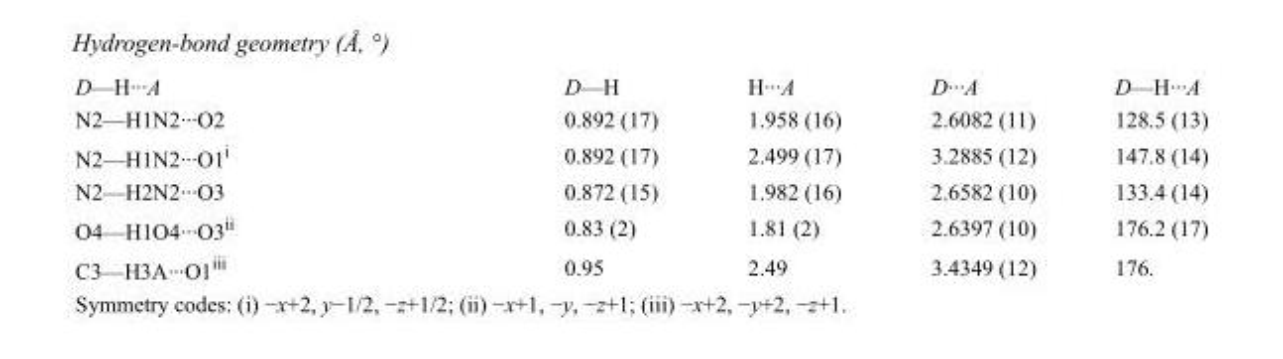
<table><tbody><tr><td>D—H···A</td><td>D—H</td><td>H···A</td><td>D···A</td><td>D—H···A</td></tr><tr><td>N2—H1N2···O2</td><td>0.892 (17)</td><td>1.958 (16)</td><td>2.6082 (11)</td><td>128.5 (13)</td></tr><tr><td>N2—H1N2···O1<sup>i</sup></td><td>0.892 (17)</td><td>2.499 (17)</td><td>3.2885 (12)</td><td>147.8 (14)</td></tr><tr><td>N2—H2N2···O3</td><td>0.872 (15)</td><td>1.982 (16)</td><td>2.6582 (10)</td><td>133.4 (14)</td></tr><tr><td>O4—H1O4···O3<sup>ii</sup></td><td>0.83 (2)</td><td>1.81 (2)</td><td>2.6397 (10)</td><td>176.2 (17)</td></tr><tr><td>C3—H3A···O1<sup>iii</sup></td><td>0.95</td><td>2.49</td><td>3.4349 (12)</td><td>176.</td></tr></tbody></table>